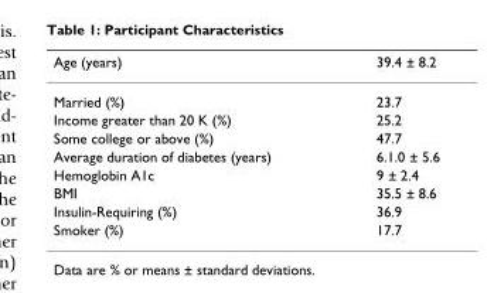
<table><thead><tr><td>Age (years)</td><td>39.4 ± 8.2</td></tr></thead><tbody><tr><td>Married (%)</td><td>23.7</td></tr><tr><td>Income greater than 20 K (%)</td><td>25.2</td></tr><tr><td>Some college or above (%)</td><td>47.7</td></tr><tr><td>Average duration of diabetes (years)</td><td>6.1.0 ± 5.6</td></tr><tr><td>Hemoglobin A1c</td><td>9 ± 2.4</td></tr><tr><td>BMI</td><td>35.5 ± 8.6</td></tr><tr><td>Insulin-Requiring (%)</td><td>36.9</td></tr><tr><td>Smoker (%)</td><td>17.7</td></tr></tbody></table>